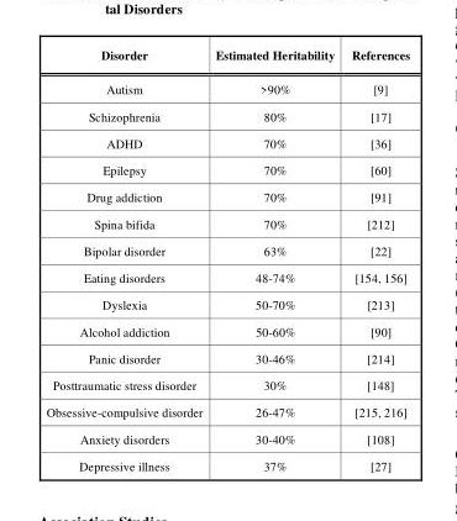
<table><thead><tr><td>Disorder</td><td>Estimated Heritability</td><td>References</td></tr></thead><tbody><tr><td>Autism</td><td>&gt;90%</td><td>[9]</td></tr><tr><td>Schizophrenia</td><td>80%</td><td>[17]</td></tr><tr><td>ADHD</td><td>70%</td><td>[36]</td></tr><tr><td>Epilepsy</td><td>70%</td><td>[60]</td></tr><tr><td>Drug addiction</td><td>70%</td><td>[91]</td></tr><tr><td>Spina bifida</td><td>70%</td><td>[212]</td></tr><tr><td>Bipolar disorder</td><td>63%</td><td>[22]</td></tr><tr><td>Eating disorders</td><td>48-74%</td><td>[154, 156]</td></tr><tr><td>Dyslexia</td><td>50-70%</td><td>[213]</td></tr><tr><td>Alcohol addiction</td><td>50-60%</td><td>[90]</td></tr><tr><td>Panic disorder</td><td>30-46%</td><td>[214]</td></tr><tr><td>Posttraumatic stress disorder</td><td>30%</td><td>[148]</td></tr><tr><td>Obsessive-compulsive disorder</td><td>26-47%</td><td>[215, 216]</td></tr><tr><td>Anxiety disorders</td><td>30-40%</td><td>[108]</td></tr><tr><td>Depressive illness</td><td>37%</td><td>[27]</td></tr></tbody></table>